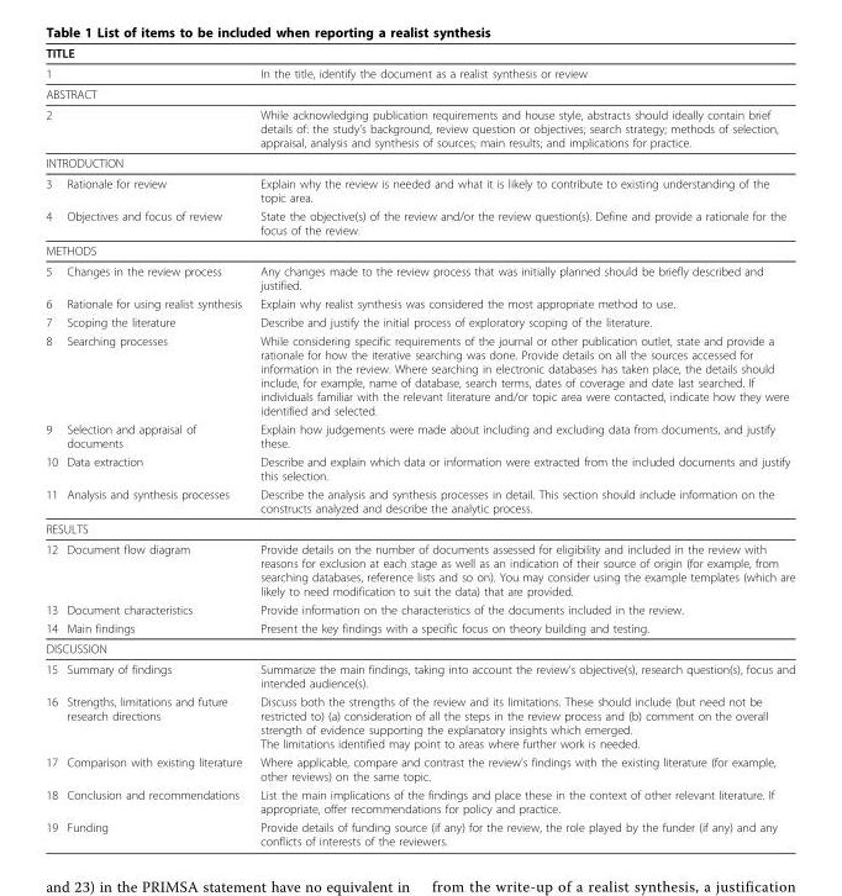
<table><thead><tr><td colspan="3">TITLE</td></tr><tr><td>1</td><td></td><td>In the title, identify the document as a realist synthesis or review</td></tr></thead><tbody><tr><td colspan="3">ABSTRACT</td></tr><tr><td>2</td><td></td><td>While acknowledging publication requirements and house style, abstracts should ideally contain brief details of: the study’s background, review question or objectives; search strategy; methods of selection, appraisal, analysis and synthesis of sources; main results; and implications for practice.</td></tr><tr><td colspan="3">INTRODUCTION</td></tr><tr><td>3</td><td>Rationale for review</td><td>Explain why the review is needed and what it is likely to contribute to existing understanding of the topic area.</td></tr><tr><td>4</td><td>Objectives and focus of review</td><td>State the objective(s) of the review and/or the review question(s). Define and provide a rationale for the focus of the review.</td></tr><tr><td colspan="3">METHODS</td></tr><tr><td>5</td><td>Changes in the review process</td><td>Any changes made to the review process that was initially planned should be briefly described and justified.</td></tr><tr><td>6</td><td>Rationale for using realist synthesis</td><td>Explain why realist synthesis was considered the most appropriate method to use.</td></tr><tr><td>7</td><td>Scoping the literature</td><td>Describe and justify the initial process of exploratory scoping of the literature.</td></tr><tr><td>8</td><td>Searching processes</td><td>While considering specific requirements of the journal or other publication outlet, state and provide a rationale for how the iterative searching was done. Provide details on all the sources accessed for information in the review. Where searching in electronic databases has taken place, the details should include, for example, name of database, search terms, dates of coverage and date last searched. If individuals familiar with the relevant literature and/or topic area were contacted, indicate how they were identified and selected.</td></tr><tr><td>9</td><td>Selection and appraisal of documents</td><td>Explain how judgements were made about including and excluding data from documents, and justify these.</td></tr><tr><td>10</td><td>Data extraction</td><td>Describe and explain which data or information were extracted from the included documents and justify this selection.</td></tr><tr><td>11</td><td>Analysis and synthesis processes</td><td>Describe the analysis and synthesis processes in detail. This section should include information on the constructs analyzed and describe the analytic process.</td></tr><tr><td colspan="3">RESULTS</td></tr><tr><td>12</td><td>Document flow diagram</td><td>Provide details on the number of documents assessed for eligibility and included in the review with reasons for exclusion at each stage as well as an indication of their source of origin (for example, from searching databases, reference lists and so on). You may consider using the example templates (which are likely to need modification to suit the data) that are provided.</td></tr><tr><td>13</td><td>Document characteristics</td><td>Provide information on the characteristics of the documents included in the review.</td></tr><tr><td>14</td><td>Main findings</td><td>Present the key findings with a specific focus on theory building and testing.</td></tr><tr><td colspan="3">DISCUSSION</td></tr><tr><td>15</td><td>Summary of findings</td><td>Summarize the main findings, taking into account the review’s objective(s), research question(s), focus and intended audience(s).</td></tr><tr><td>16</td><td>Strengths, limitations and future research directions</td><td>Discuss both the strengths of the review and its limitations. These should include (but need not be restricted to) (a) consideration of all the steps in the review process and (b) comment on the overall strength of evidence supporting the explanatory insights which emerged. The limitations identified may point to areas where further work is needed.</td></tr><tr><td>17</td><td>Comparison with existing literature</td><td>Where applicable, compare and contrast the review’s findings with the existing literature (for example, other reviews) on the same topic.</td></tr><tr><td>18</td><td>Conclusion and recommendations</td><td>List the main implications of the findings and place these in the context of other relevant literature. If appropriate, offer recommendations for policy and practice.</td></tr><tr><td>19</td><td>Funding</td><td>Provide details of funding source (if any) for the review, the role played by the funder (if any) and any conflicts of interests of the reviewers.</td></tr></tbody></table>